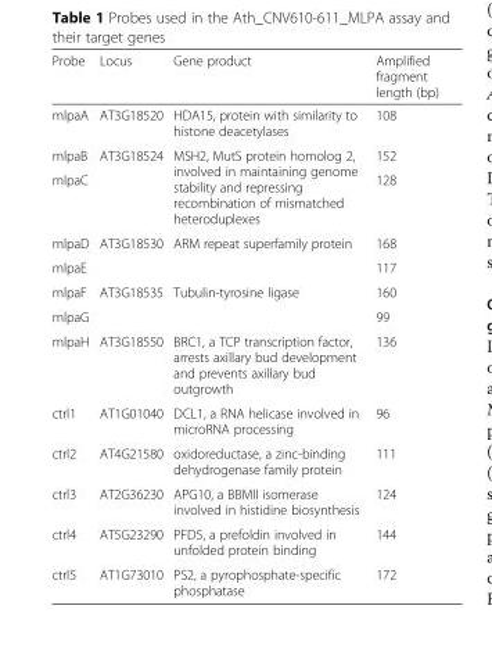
<table><thead><tr><td>Probe</td><td>Locus</td><td>Gene product</td><td>Amplified fragment length (bp)</td></tr></thead><tbody><tr><td>mlpaA</td><td>AT3G18520</td><td>HDA15, protein with similarity to histone deacetylases</td><td>108</td></tr><tr><td>mlpaB</td><td rowspan="2">AT3G18524</td><td rowspan="2">MSH2, MutS protein homolog 2, involved in maintaining genome stability and repressing recombination of mismatched heteroduplexes</td><td>152</td></tr><tr><td>mlpaC</td><td>128</td></tr><tr><td>mlpaD</td><td rowspan="2">AT3G18530</td><td rowspan="2">ARM repeat superfamily protein</td><td>168</td></tr><tr><td>mlpaE</td><td>117</td></tr><tr><td>mlpaF</td><td rowspan="2">AT3G18535</td><td rowspan="2">Tubulin-tyrosine ligase</td><td>160</td></tr><tr><td>mlpaG</td><td>99</td></tr><tr><td>mlpaH</td><td>AT3G18550</td><td>BRC1, a TCP transcription factor, arrests axillary bud development and prevents axillary bud outgrowth</td><td>136</td></tr><tr><td>ctrl1</td><td>AT1G01040</td><td>DCL1, a RNA helicase involved in microRNA processing</td><td>96</td></tr><tr><td>ctrl2</td><td>AT4G21580</td><td>oxidoreductase, a zinc-binding dehydrogenase family protein</td><td>111</td></tr><tr><td>ctrl3</td><td>AT2G36230</td><td>APG10, a BBMII isomerase involved in histidine biosynthesis</td><td>124</td></tr><tr><td>ctrl4</td><td>AT5G23290</td><td>PFD5, a prefoldin involved in unfolded protein binding</td><td>144</td></tr><tr><td>ctrl5</td><td>AT1G73010</td><td>PS2, a pyrophosphate-specific phosphatase</td><td>172</td></tr></tbody></table>